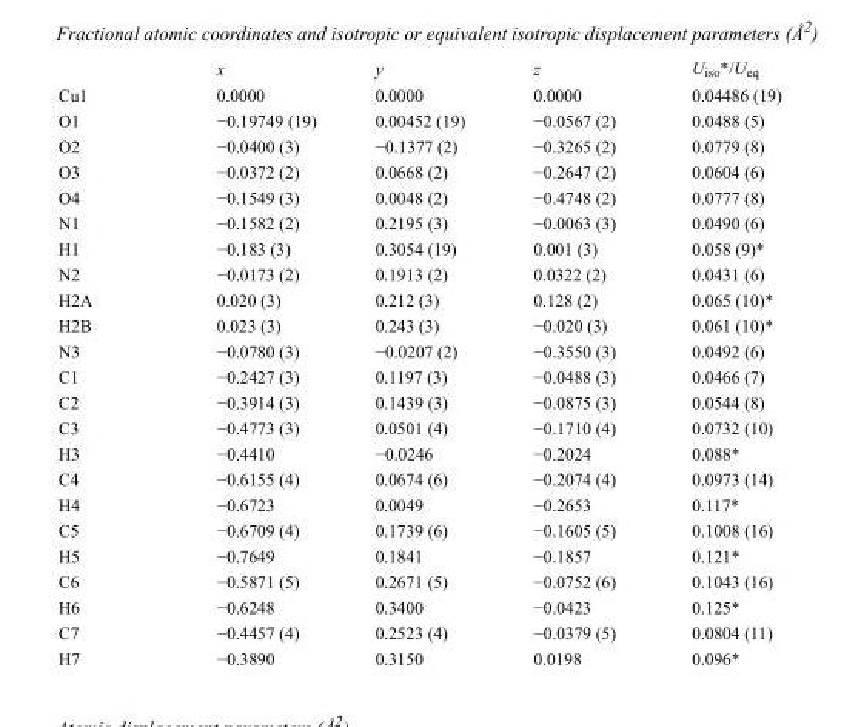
<table><thead><tr><td></td><td>x</td><td>y</td><td>z</td><td>U<sub>iso</sub>*/U<sub>eq</sub></td></tr></thead><tbody><tr><td>Cu1</td><td>0.0000</td><td>0.0000</td><td>0.0000</td><td>0.04486 (19)</td></tr><tr><td>O1</td><td>−0.19749 (19)</td><td>0.00452 (19)</td><td>−0.0567 (2)</td><td>0.0488 (5)</td></tr><tr><td>O2</td><td>−0.0400 (3)</td><td>−0.1377 (2)</td><td>−0.3265 (2)</td><td>0.0779 (8)</td></tr><tr><td>O3</td><td>−0.0372 (2)</td><td>0.0668 (2)</td><td>−0.2647 (2)</td><td>0.0604 (6)</td></tr><tr><td>O4</td><td>−0.1549 (3)</td><td>0.0048 (2)</td><td>−0.4748 (2)</td><td>0.0777 (8)</td></tr><tr><td>N1</td><td>−0.1582 (2)</td><td>0.2195 (3)</td><td>−0.0063 (3)</td><td>0.0490 (6)</td></tr><tr><td>H1</td><td>−0.183 (3)</td><td>0.3054 (19)</td><td>0.001 (3)</td><td>0.058 (9)*</td></tr><tr><td>N2</td><td>−0.0173 (2)</td><td>0.1913 (2)</td><td>0.0322 (2)</td><td>0.0431 (6)</td></tr><tr><td>H2A</td><td>0.020 (3)</td><td>0.212 (3)</td><td>0.128 (2)</td><td>0.065 (10)*</td></tr><tr><td>H2B</td><td>0.023 (3)</td><td>0.243 (3)</td><td>−0.020 (3)</td><td>0.061 (10)*</td></tr><tr><td>N3</td><td>−0.0780 (3)</td><td>−0.0207 (2)</td><td>−0.3550 (3)</td><td>0.0492 (6)</td></tr><tr><td>C1</td><td>−0.2427 (3)</td><td>0.1197 (3)</td><td>−0.0488 (3)</td><td>0.0466 (7)</td></tr><tr><td>C2</td><td>−0.3914 (3)</td><td>0.1439 (3)</td><td>−0.0875 (3)</td><td>0.0544 (8)</td></tr><tr><td>C3</td><td>−0.4773 (3)</td><td>0.0501 (4)</td><td>−0.1710 (4)</td><td>0.0732 (10)</td></tr><tr><td>H3</td><td>−0.4410</td><td>−0.0246</td><td>−0.2024</td><td>0.088*</td></tr><tr><td>C4</td><td>−0.6155 (4)</td><td>0.0674 (6)</td><td>−0.2074 (4)</td><td>0.0973 (14)</td></tr><tr><td>H4</td><td>−0.6723</td><td>0.0049</td><td>−0.2653</td><td>0.117*</td></tr><tr><td>C5</td><td>−0.6709 (4)</td><td>0.1739 (6)</td><td>−0.1605 (5)</td><td>0.1008 (16)</td></tr><tr><td>H5</td><td>−0.7649</td><td>0.1841</td><td>−0.1857</td><td>0.121*</td></tr><tr><td>C6</td><td>−0.5871 (5)</td><td>0.2671 (5)</td><td>−0.0752 (6)</td><td>0.1043 (16)</td></tr><tr><td>H6</td><td>−0.6248</td><td>0.3400</td><td>−0.0423</td><td>0.125*</td></tr><tr><td>C7</td><td>−0.4457 (4)</td><td>0.2523 (4)</td><td>−0.0379 (5)</td><td>0.0804 (11)</td></tr><tr><td>H7</td><td>−0.3890</td><td>0.3150</td><td>0.0198</td><td>0.096*</td></tr></tbody></table>